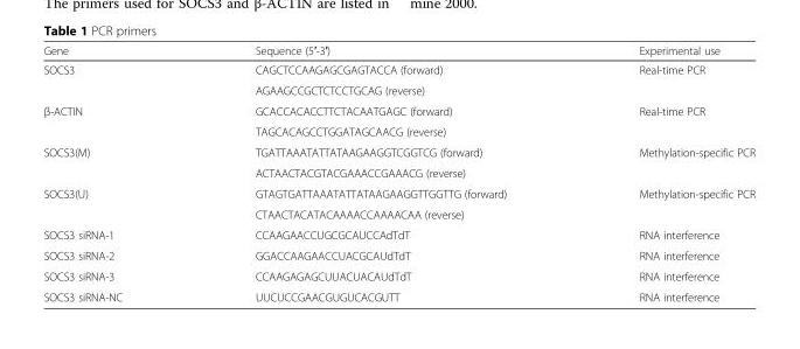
<table><thead><tr><td>Gene</td><td>Sequence (5′-3′)</td><td>Experimental use</td></tr></thead><tbody><tr><td rowspan="2">SOCS3</td><td>CAGCTCCAAGAGCGAGTACCA (forward)</td><td rowspan="2">Real-time PCR</td></tr><tr><td>AGAAGCCGCTCTCCTGCAG (reverse)</td></tr><tr><td rowspan="2">β-ACTIN</td><td>GCACCACACCTTCTACAATGAGC (forward)</td><td rowspan="2">Real-time PCR</td></tr><tr><td>TAGCACAGCCTGGATAGCAACG (reverse)</td></tr><tr><td rowspan="2">SOCS3(M)</td><td>TGATTAAATATTATAAGAAGGTCGGTCG (forward)</td><td rowspan="2">Methylation-specific PCR</td></tr><tr><td>ACTAACTACGTACGAAACCGAAACG (reverse)</td></tr><tr><td rowspan="2">SOCS3(U)</td><td>GTAGTGATTAAATATTATAAGAAGGTTGGTTG (forward)</td><td rowspan="2">Methylation-specific PCR</td></tr><tr><td>CTAACTACATACAAAACCAAAACAA (reverse)</td></tr><tr><td>SOCS3 siRNA-1</td><td>CCAAGAACCUGCGCAUCCAdTdT</td><td>RNA interference</td></tr><tr><td>SOCS3 siRNA-2</td><td>GGACCAAGAACCUACGCAUdTdT</td><td>RNA interference</td></tr><tr><td>SOCS3 siRNA-3</td><td>CCAAGAGAGCUUACUACAUdTdT</td><td>RNA interference</td></tr><tr><td>SOCS3 siRNA-NC</td><td>UUCUCCGAACGUGUCACGUTT</td><td>RNA interference</td></tr></tbody></table>